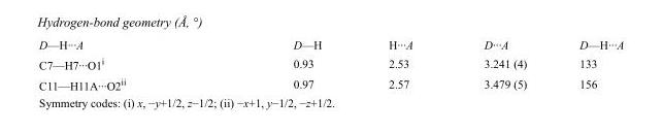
<table><tbody><tr><td>D—H···A</td><td>D—H</td><td>H···A</td><td>D···A</td><td>D—H···A</td></tr><tr><td>C7—H7···O1<sup>i</sup></td><td>0.93</td><td>2.53</td><td>3.241 (4)</td><td>133</td></tr><tr><td>C11—H11A···O2<sup>ii</sup></td><td>0.97</td><td>2.57</td><td>3.479 (5)</td><td>156</td></tr></tbody></table>